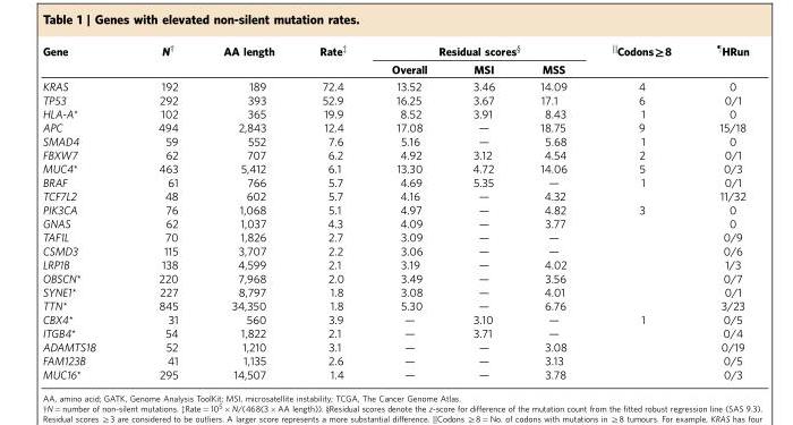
<table><thead><tr><td rowspan="2">Gene</td><td rowspan="2">N†</td><td rowspan="2">AA length</td><td rowspan="2">Rate‡</td><td colspan="3">Residual scores§</td><td rowspan="2">||Codons⩾8</td><td rowspan="2">¶HRun</td></tr><tr><td>Overall</td><td>MSI</td><td>MSS</td></tr></thead><tbody><tr><td>KRAS</td><td>192</td><td>189</td><td>72.4</td><td>13.52</td><td>3.46</td><td>14.09</td><td>4</td><td>0</td></tr><tr><td>TP53</td><td>292</td><td>393</td><td>52.9</td><td>16.25</td><td>3.67</td><td>17.1</td><td>6</td><td>0/1</td></tr><tr><td>HLA-A*</td><td>102</td><td>365</td><td>19.9</td><td>8.52</td><td>3.91</td><td>8.43</td><td>1</td><td>0</td></tr><tr><td>APC</td><td>494</td><td>2,843</td><td>12.4</td><td>17.08</td><td>—</td><td>18.75</td><td>9</td><td>15/18</td></tr><tr><td>SMAD4</td><td>59</td><td>552</td><td>7.6</td><td>5.16</td><td>—</td><td>5.68</td><td>1</td><td>0</td></tr><tr><td>FBXW7</td><td>62</td><td>707</td><td>6.2</td><td>4.92</td><td>3.12</td><td>4.54</td><td>2</td><td>0/1</td></tr><tr><td>MUC4*</td><td>463</td><td>5,412</td><td>6.1</td><td>13.30</td><td>4.72</td><td>14.06</td><td>5</td><td>0/3</td></tr><tr><td>BRAF</td><td>61</td><td>766</td><td>5.7</td><td>4.69</td><td>5.35</td><td>—</td><td>1</td><td>0/1</td></tr><tr><td>TCF7L2</td><td>48</td><td>602</td><td>5.7</td><td>4.16</td><td>—</td><td>4.32</td><td></td><td>11/32</td></tr><tr><td>PIK3CA</td><td>76</td><td>1,068</td><td>5.1</td><td>4.97</td><td>—</td><td>4.82</td><td>3</td><td>0</td></tr><tr><td>GNAS</td><td>62</td><td>1,037</td><td>4.3</td><td>4.09</td><td>—</td><td>3.77</td><td></td><td>0</td></tr><tr><td>TAF1L</td><td>70</td><td>1,826</td><td>2.7</td><td>3.09</td><td>—</td><td>—</td><td></td><td>0/9</td></tr><tr><td>CSMD3</td><td>115</td><td>3,707</td><td>2.2</td><td>3.06</td><td>—</td><td>—</td><td></td><td>0/6</td></tr><tr><td>LRP1B</td><td>138</td><td>4,599</td><td>2.1</td><td>3.19</td><td>—</td><td>4.02</td><td></td><td>1/3</td></tr><tr><td>OBSCN*</td><td>220</td><td>7,968</td><td>2.0</td><td>3.49</td><td>—</td><td>3.56</td><td></td><td>0/7</td></tr><tr><td>SYNE1*</td><td>227</td><td>8,797</td><td>1.8</td><td>3.08</td><td>—</td><td>4.01</td><td></td><td>0/1</td></tr><tr><td>TTN*</td><td>845</td><td>34,350</td><td>1.8</td><td>5.30</td><td>—</td><td>6.76</td><td></td><td>3/23</td></tr><tr><td>CBX4*</td><td>31</td><td>560</td><td>3.9</td><td>—</td><td>3.10</td><td>—</td><td>1</td><td>0/5</td></tr><tr><td>ITGB4*</td><td>54</td><td>1,822</td><td>2.1</td><td>—</td><td>3.71</td><td>—</td><td></td><td>0/4</td></tr><tr><td>ADAMTS18</td><td>52</td><td>1,210</td><td>3.1</td><td>—</td><td>—</td><td>3.08</td><td></td><td>0/19</td></tr><tr><td>FAM123B</td><td>41</td><td>1,135</td><td>2.6</td><td>—</td><td>—</td><td>3.13</td><td></td><td>0/5</td></tr><tr><td>MUC16*</td><td>295</td><td>14,507</td><td>1.4</td><td>—</td><td>—</td><td>3.78</td><td></td><td>0/3</td></tr></tbody></table>